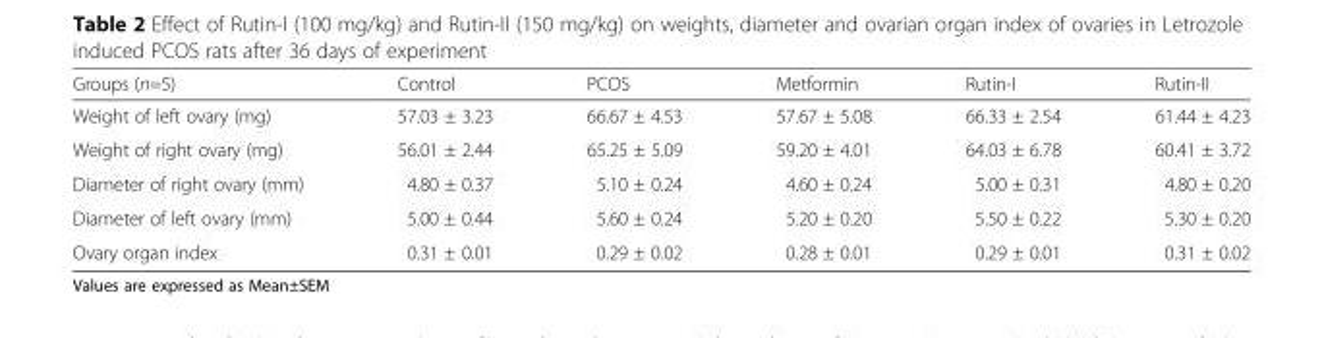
<table><thead><tr><td>Groups (n=5)</td><td>Control</td><td>PCOS</td><td>Metformin</td><td>Rutin-I</td><td>Rutin-II</td></tr></thead><tbody><tr><td>Weight of left ovary (mg)</td><td>57.03 ± 3.23</td><td>66.67 ± 4.53</td><td>57.67 ± 5.08</td><td>66.33 ± 2.54</td><td>61.44 ± 4.23</td></tr><tr><td>Weight of right ovary (mg)</td><td>56.01 ± 2.44</td><td>65.25 ± 5.09</td><td>59.20 ± 4.01</td><td>64.03 ± 6.78</td><td>60.41 ± 3.72</td></tr><tr><td>Diameter of right ovary (mm)</td><td>4.80 ± 0.37</td><td>5.10 ± 0.24</td><td>4.60 ± 0.24</td><td>5.00 ± 0.31</td><td>4.80 ± 0.20</td></tr><tr><td>Diameter of left ovary (mm)</td><td>5.00 ± 0.44</td><td>5.60 ± 0.24</td><td>5.20 ± 0.20</td><td>5.50 ± 0.22</td><td>5.30 ± 0.20</td></tr><tr><td>Ovary organ index</td><td>0.31 ± 0.01</td><td>0.29 ± 0.02</td><td>0.28 ± 0.01</td><td>0.29 ± 0.01</td><td>0.31 ± 0.02</td></tr></tbody></table>